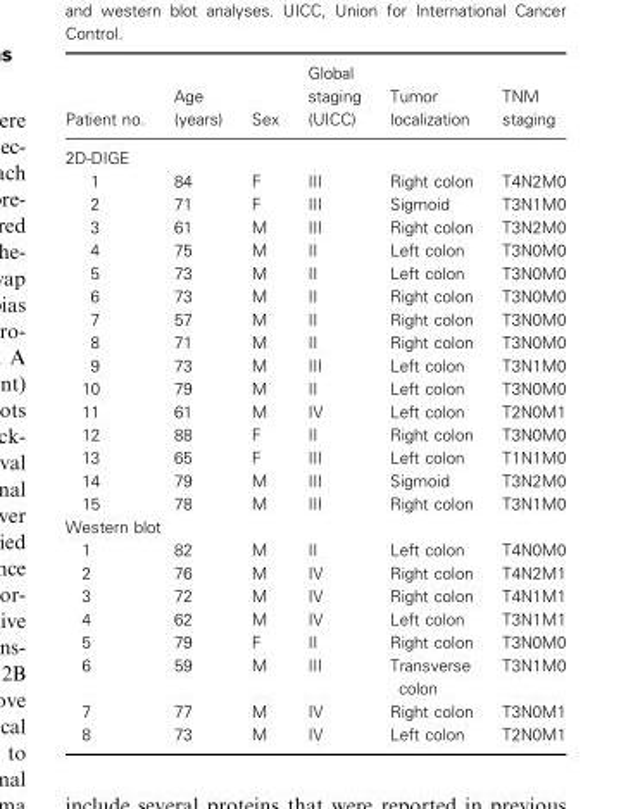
<table><thead><tr><td>Patient no.</td><td>Age (years)</td><td>Sex</td><td>Global staging (UICC)</td><td>Tumor localization</td><td>TNM staging</td></tr></thead><tbody><tr><td colspan="6">2D-DIGE</td></tr><tr><td>1</td><td>84</td><td>F</td><td>III</td><td>Right colon</td><td>T4N2M0</td></tr><tr><td>2</td><td>71</td><td>F</td><td>III</td><td>Sigmoid</td><td>T3N1M0</td></tr><tr><td>3</td><td>61</td><td>M</td><td>III</td><td>Right colon</td><td>T3N2M0</td></tr><tr><td>4</td><td>75</td><td>M</td><td>II</td><td>Left colon</td><td>T3N0M0</td></tr><tr><td>5</td><td>73</td><td>M</td><td>II</td><td>Left colon</td><td>T3N0M0</td></tr><tr><td>6</td><td>73</td><td>M</td><td>II</td><td>Right colon</td><td>T3N0M0</td></tr><tr><td>7</td><td>57</td><td>M</td><td>II</td><td>Right colon</td><td>T3N0M0</td></tr><tr><td>8</td><td>71</td><td>M</td><td>II</td><td>Right colon</td><td>T3N0M0</td></tr><tr><td>9</td><td>73</td><td>M</td><td>III</td><td>Left colon</td><td>T3N1M0</td></tr><tr><td>10</td><td>79</td><td>M</td><td>II</td><td>Left colon</td><td>T3N0M0</td></tr><tr><td>11</td><td>61</td><td>M</td><td>IV</td><td>Left colon</td><td>T2N0M1</td></tr><tr><td>12</td><td>88</td><td>F</td><td>II</td><td>Right colon</td><td>T3N0M0</td></tr><tr><td>13</td><td>65</td><td>F</td><td>III</td><td>Left colon</td><td>T1N1M0</td></tr><tr><td>14</td><td>79</td><td>M</td><td>III</td><td>Sigmoid</td><td>T3N2M0</td></tr><tr><td>15</td><td>78</td><td>M</td><td>III</td><td>Right colon</td><td>T3N1M0</td></tr><tr><td colspan="6">Western blot</td></tr><tr><td>1</td><td>82</td><td>M</td><td>II</td><td>Left colon</td><td>T4N0M0</td></tr><tr><td>2</td><td>76</td><td>M</td><td>IV</td><td>Right colon</td><td>T4N2M1</td></tr><tr><td>3</td><td>72</td><td>M</td><td>IV</td><td>Right colon</td><td>T4N1M1</td></tr><tr><td>4</td><td>62</td><td>M</td><td>IV</td><td>Left colon</td><td>T3N1M1</td></tr><tr><td>5</td><td>79</td><td>F</td><td>II</td><td>Right colon</td><td>T3N0M0</td></tr><tr><td>6</td><td>59</td><td>M</td><td>III</td><td>Transverse colon</td><td>T3N1M0</td></tr><tr><td>7</td><td>77</td><td>M</td><td>IV</td><td>Right colon</td><td>T3N0M1</td></tr><tr><td>8</td><td>73</td><td>M</td><td>IV</td><td>Left colon</td><td>T2N0M1</td></tr></tbody></table>